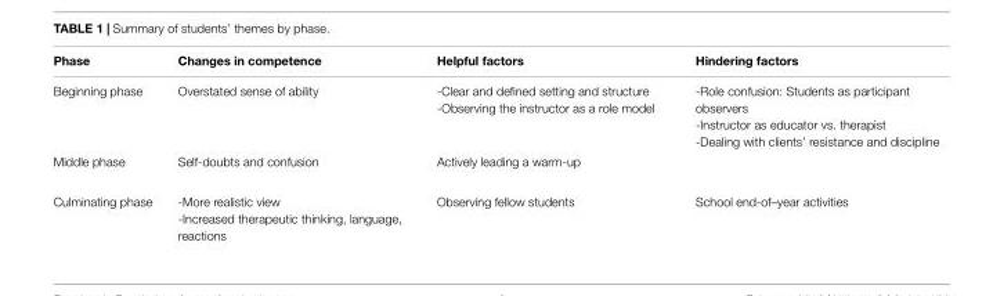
<table><thead><tr><td>Phase</td><td>Changes in competence</td><td>Helpful factors</td><td>Hindering factors</td></tr></thead><tbody><tr><td>Beginning phase</td><td>Overstated sense of ability</td><td>-Clear and defined setting and structure -Observing the instructor as a role model</td><td>-Role confusion: Students as participant observers -Instructor as educator vs. therapist -Dealing with clients’ resistance and discipline</td></tr><tr><td>Middle phase</td><td>Self-doubts and confusion</td><td>Actively leading a warm-up</td><td></td></tr><tr><td>Culminating phase</td><td>-More realistic view -Increased therapeutic thinking, language, reactions</td><td>Observing fellow students</td><td>School end-of–year activities</td></tr></tbody></table>